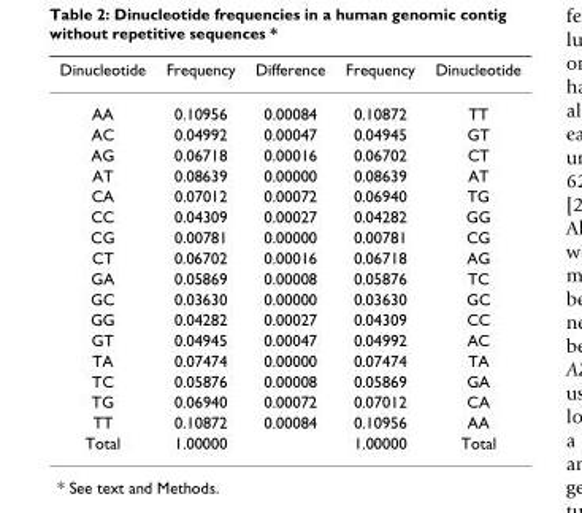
<table><thead><tr><td>Dinucleotide</td><td>Frequency</td><td>Difference</td><td>Frequency</td><td>Dinucleotide</td></tr></thead><tbody><tr><td>AA</td><td>0.10956</td><td>0.00084</td><td>0.10872</td><td>TT</td></tr><tr><td>AC</td><td>0.04992</td><td>0.00047</td><td>0.04945</td><td>GT</td></tr><tr><td>AG</td><td>0.06718</td><td>0.00016</td><td>0.06702</td><td>CT</td></tr><tr><td>AT</td><td>0.08639</td><td>0.00000</td><td>0.08639</td><td>AT</td></tr><tr><td>CA</td><td>0.07012</td><td>0.00072</td><td>0.06940</td><td>TG</td></tr><tr><td>CC</td><td>0.04309</td><td>0.00027</td><td>0.04282</td><td>GG</td></tr><tr><td>CG</td><td>0.00781</td><td>0.00000</td><td>0.00781</td><td>CG</td></tr><tr><td>CT</td><td>0.06702</td><td>0.00016</td><td>0.06718</td><td>AG</td></tr><tr><td>GA</td><td>0.05869</td><td>0.00008</td><td>0.05876</td><td>TC</td></tr><tr><td>GC</td><td>0.03630</td><td>0.00000</td><td>0.03630</td><td>GC</td></tr><tr><td>GG</td><td>0.04282</td><td>0.00027</td><td>0.04309</td><td>CC</td></tr><tr><td>GT</td><td>0.04945</td><td>0.00047</td><td>0.04992</td><td>AC</td></tr><tr><td>TA</td><td>0.07474</td><td>0.00000</td><td>0.07474</td><td>TA</td></tr><tr><td>TC</td><td>0.05876</td><td>0.00008</td><td>0.05869</td><td>GA</td></tr><tr><td>TG</td><td>0.06940</td><td>0.00072</td><td>0.07012</td><td>CA</td></tr><tr><td>TT</td><td>0.10872</td><td>0.00084</td><td>0.10956</td><td>AA</td></tr><tr><td>Total</td><td>1.00000</td><td></td><td>1.00000</td><td>Total</td></tr></tbody></table>